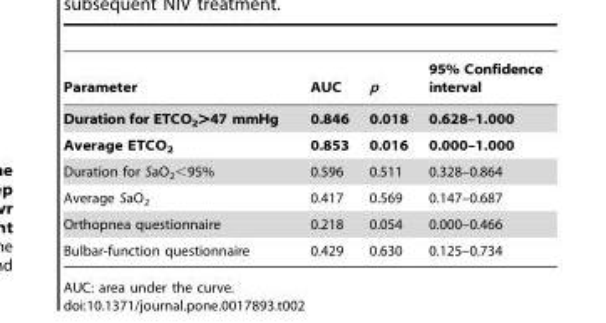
<table><thead><tr><td>Parameter</td><td>AUC</td><td>p</td><td>95% Confidence interval</td></tr></thead><tbody><tr><td>Duration for ETCO<sub>2</sub>&gt;47 mmHg</td><td>0.846</td><td>0.018</td><td>0.628–1.000</td></tr><tr><td>Average ETCO<sub>2</sub></td><td>0.853</td><td>0.016</td><td>0.000–1.000</td></tr><tr><td>Duration for SaO<sub>2</sub>&lt;95%</td><td>0.596</td><td>0.511</td><td>0.328–0.864</td></tr><tr><td>Average SaO<sub>2</sub></td><td>0.417</td><td>0.569</td><td>0.147–0.687</td></tr><tr><td>Orthopnea questionnaire</td><td>0.218</td><td>0.054</td><td>0.000–0.466</td></tr><tr><td>Bulbar-function questionnaire</td><td>0.429</td><td>0.630</td><td>0.125–0.734</td></tr></tbody></table>